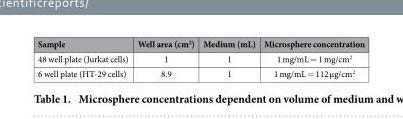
<table><thead><tr><td>Sample</td><td>Well area (cm<sup>2</sup>)</td><td>Medium (mL)</td><td>Microsphere concentration</td></tr></thead><tbody><tr><td>48 well plate (Jurkat cells)</td><td>1</td><td>1</td><td>1 mg/mL = 1 mg/cm<sup>2</sup></td></tr><tr><td>6 well plate (HT-29 cells)</td><td>8.9</td><td>1</td><td>1 mg/mL = 112 μg/cm<sup>2</sup></td></tr></tbody></table>